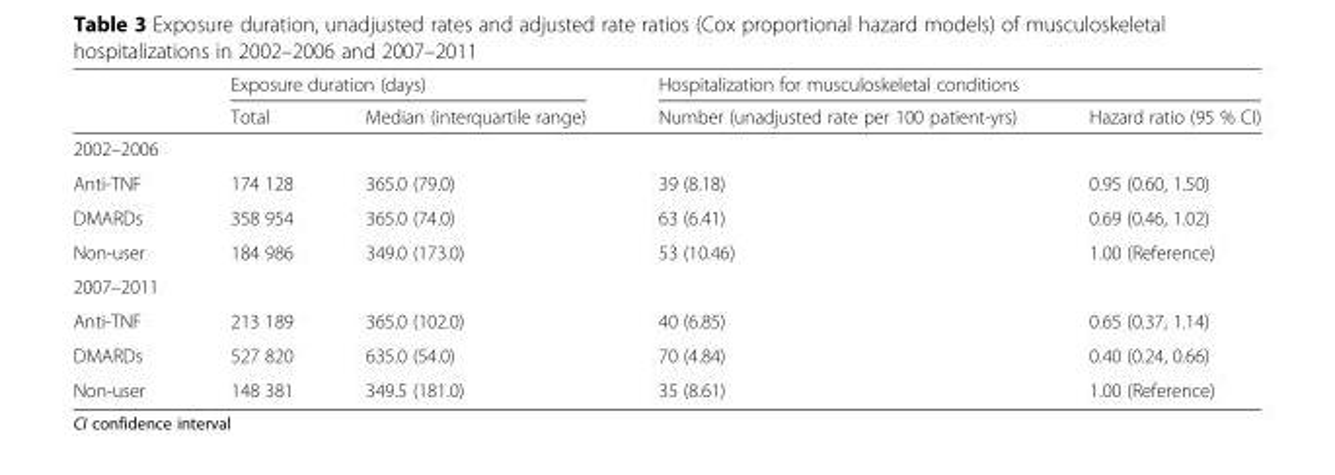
<table><thead><tr><td rowspan="2"></td><td colspan="2">Exposure duration (days)</td><td colspan="2">Hospitalization for musculoskeletal conditions</td></tr><tr><td>Total</td><td>Median (interquartile range)</td><td>Number (unadjusted rate per 100 patient-yrs)</td><td>Hazard ratio (95 % CI)</td></tr></thead><tbody><tr><td colspan="5">2002–2006</td></tr><tr><td>Anti-TNF</td><td>174 128</td><td>365.0 (79.0)</td><td>39 (8.18)</td><td>0.95 (0.60, 1.50)</td></tr><tr><td>DMARDs</td><td>358 954</td><td>365.0 (74.0)</td><td>63 (6.41)</td><td>0.69 (0.46, 1.02)</td></tr><tr><td>Non-user</td><td>184 986</td><td>349.0 (173.0)</td><td>53 (10.46)</td><td>1.00 (Reference)</td></tr><tr><td colspan="5">2007–2011</td></tr><tr><td>Anti-TNF</td><td>213 189</td><td>365.0 (102.0)</td><td>40 (6.85)</td><td>0.65 (0.37, 1.14)</td></tr><tr><td>DMARDs</td><td>527 820</td><td>635.0 (54.0)</td><td>70 (4.84)</td><td>0.40 (0.24, 0.66)</td></tr><tr><td>Non-user</td><td>148 381</td><td>349.5 (181.0)</td><td>35 (8.61)</td><td>1.00 (Reference)</td></tr></tbody></table>